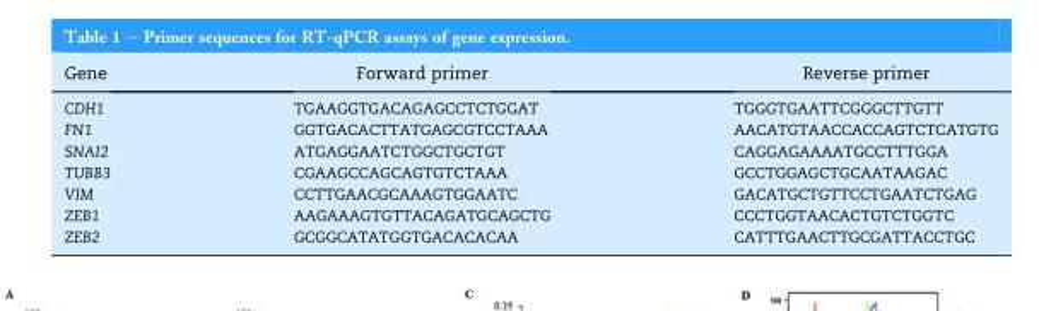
<table><thead><tr><td>Gene</td><td>Forward primer</td><td>Reverse primer</td></tr></thead><tbody><tr><td>CDH1</td><td>TGAAGGTGACAGAGCCTCTGGAT</td><td>TGGGTGAATTCGGGCTTGTT</td></tr><tr><td>FN1</td><td>GGTGACACTTATGAGCGTCCTAAA</td><td>AACATGTAACCACCAGTCTCATGTG</td></tr><tr><td>SNAI2</td><td>ATGAGGAATCTGGCTGCTGT</td><td>CAGGAGAAAATGCCTTTGGA</td></tr><tr><td>TUBB3</td><td>CGAAGCCAGCAGTGTCTAAA</td><td>GCCTGGAGCTGCAATAAGAC</td></tr><tr><td>VIM</td><td>CCTTGAACGCAAAGTGGAATC</td><td>GACATGCTGTTCCTGAATCTGAG</td></tr><tr><td>ZEB1</td><td>AAGAAAGTGTTACAGATGCAGCTG</td><td>CCCTGGTAACACTGTCTGGTC</td></tr><tr><td>ZEB2</td><td>GCGGCATATGGTGACACACAA</td><td>CATTTGAACTTGCGATTACCTGC</td></tr></tbody></table>